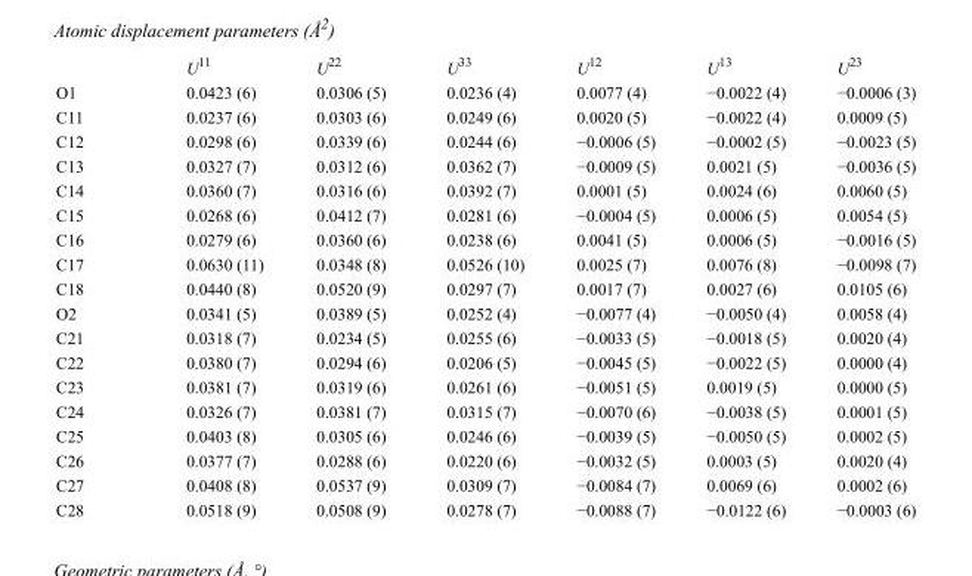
<table><thead><tr><td></td><td>U<sup>11</sup></td><td>U<sup>22</sup></td><td>U<sup>33</sup></td><td>U<sup>12</sup></td><td>U<sup>13</sup></td><td>U<sup>23</sup></td></tr></thead><tbody><tr><td>O1</td><td>0.0423 (6)</td><td>0.0306 (5)</td><td>0.0236 (4)</td><td>0.0077 (4)</td><td>−0.0022 (4)</td><td>−0.0006 (3)</td></tr><tr><td>C11</td><td>0.0237 (6)</td><td>0.0303 (6)</td><td>0.0249 (6)</td><td>0.0020 (5)</td><td>−0.0022 (4)</td><td>0.0009 (5)</td></tr><tr><td>C12</td><td>0.0298 (6)</td><td>0.0339 (6)</td><td>0.0244 (6)</td><td>−0.0006 (5)</td><td>−0.0002 (5)</td><td>−0.0023 (5)</td></tr><tr><td>C13</td><td>0.0327 (7)</td><td>0.0312 (6)</td><td>0.0362 (7)</td><td>−0.0009 (5)</td><td>0.0021 (5)</td><td>−0.0036 (5)</td></tr><tr><td>C14</td><td>0.0360 (7)</td><td>0.0316 (6)</td><td>0.0392 (7)</td><td>0.0001 (5)</td><td>0.0024 (6)</td><td>0.0060 (5)</td></tr><tr><td>C15</td><td>0.0268 (6)</td><td>0.0412 (7)</td><td>0.0281 (6)</td><td>−0.0004 (5)</td><td>0.0006 (5)</td><td>0.0054 (5)</td></tr><tr><td>C16</td><td>0.0279 (6)</td><td>0.0360 (6)</td><td>0.0238 (6)</td><td>0.0041 (5)</td><td>0.0006 (5)</td><td>−0.0016 (5)</td></tr><tr><td>C17</td><td>0.0630 (11)</td><td>0.0348 (8)</td><td>0.0526 (10)</td><td>0.0025 (7)</td><td>0.0076 (8)</td><td>−0.0098 (7)</td></tr><tr><td>C18</td><td>0.0440 (8)</td><td>0.0520 (9)</td><td>0.0297 (7)</td><td>0.0017 (7)</td><td>0.0027 (6)</td><td>0.0105 (6)</td></tr><tr><td>O2</td><td>0.0341 (5)</td><td>0.0389 (5)</td><td>0.0252 (4)</td><td>−0.0077 (4)</td><td>−0.0050 (4)</td><td>0.0058 (4)</td></tr><tr><td>C21</td><td>0.0318 (7)</td><td>0.0234 (5)</td><td>0.0255 (6)</td><td>−0.0033 (5)</td><td>−0.0018 (5)</td><td>0.0020 (4)</td></tr><tr><td>C22</td><td>0.0380 (7)</td><td>0.0294 (6)</td><td>0.0206 (5)</td><td>−0.0045 (5)</td><td>−0.0022 (5)</td><td>0.0000 (4)</td></tr><tr><td>C23</td><td>0.0381 (7)</td><td>0.0319 (6)</td><td>0.0261 (6)</td><td>−0.0051 (5)</td><td>0.0019 (5)</td><td>0.0000 (5)</td></tr><tr><td>C24</td><td>0.0326 (7)</td><td>0.0381 (7)</td><td>0.0315 (7)</td><td>−0.0070 (6)</td><td>−0.0038 (5)</td><td>0.0001 (5)</td></tr><tr><td>C25</td><td>0.0403 (8)</td><td>0.0305 (6)</td><td>0.0246 (6)</td><td>−0.0039 (5)</td><td>−0.0050 (5)</td><td>0.0002 (5)</td></tr><tr><td>C26</td><td>0.0377 (7)</td><td>0.0288 (6)</td><td>0.0220 (6)</td><td>−0.0032 (5)</td><td>0.0003 (5)</td><td>0.0020 (4)</td></tr><tr><td>C27</td><td>0.0408 (8)</td><td>0.0537 (9)</td><td>0.0309 (7)</td><td>−0.0084 (7)</td><td>0.0069 (6)</td><td>0.0002 (6)</td></tr><tr><td>C28</td><td>0.0518 (9)</td><td>0.0508 (9)</td><td>0.0278 (7)</td><td>−0.0088 (7)</td><td>−0.0122 (6)</td><td>−0.0003 (6)</td></tr></tbody></table>